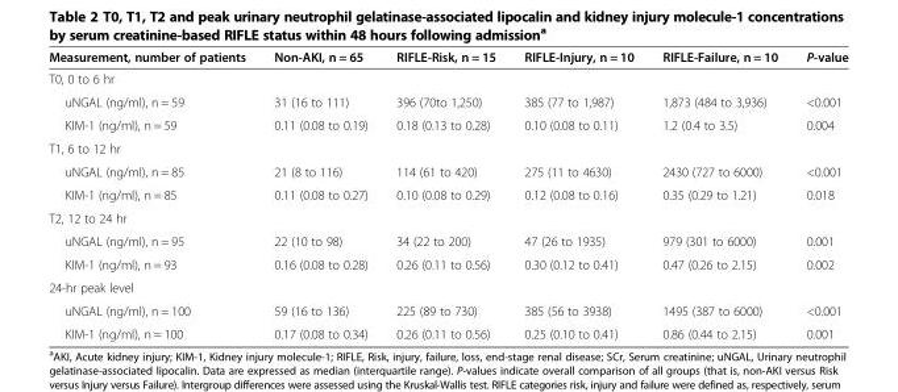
<table><thead><tr><td>Measurement, number of patients</td><td>Non-AKI, n = 65</td><td>RIFLE-Risk, n = 15</td><td>RIFLE-Injury, n = 10</td><td>RIFLE-Failure, n = 10</td><td>P-value</td></tr></thead><tbody><tr><td colspan="6">T0, 0 to 6 hr</td></tr><tr><td>uNGAL (ng/ml), n = 59</td><td>31 (16 to 111)</td><td>396 (70to 1,250)</td><td>385 (77 to 1,987)</td><td>1,873 (484 to 3,936)</td><td>&lt;0.001</td></tr><tr><td>KIM-1 (ng/ml), n = 59</td><td>0.11 (0.08 to 0.19)</td><td>0.18 (0.13 to 0.28)</td><td>0.10 (0.08 to 0.11)</td><td>1.2 (0.4 to 3.5)</td><td>0.004</td></tr><tr><td colspan="6">T1, 6 to 12 hr</td></tr><tr><td>uNGAL (ng/ml), n = 85</td><td>21 (8 to 116)</td><td>114 (61 to 420)</td><td>275 (11 to 4630)</td><td>2430 (727 to 6000)</td><td>&lt;0.001</td></tr><tr><td>KIM-1 (ng/ml), n = 85</td><td>0.11 (0.08 to 0.27)</td><td>0.10 (0.08 to 0.29)</td><td>0.12 (0.08 to 0.16)</td><td>0.35 (0.29 to 1.21)</td><td>0.018</td></tr><tr><td colspan="6">T2, 12 to 24 hr</td></tr><tr><td>uNGAL (ng/ml), n = 95</td><td>22 (10 to 98)</td><td>34 (22 to 200)</td><td>47 (26 to 1935)</td><td>979 (301 to 6000)</td><td>0.001</td></tr><tr><td>KIM-1 (ng/ml), n = 93</td><td>0.16 (0.08 to 0.28)</td><td>0.26 (0.11 to 0.56)</td><td>0.30 (0.12 to 0.41)</td><td>0.47 (0.26 to 2.15)</td><td>0.002</td></tr><tr><td colspan="6">24-hr peak level</td></tr><tr><td>uNGAL (ng/ml), n = 100</td><td>59 (16 to 136)</td><td>225 (89 to 730)</td><td>385 (56 to 3938)</td><td>1495 (387 to 6000)</td><td>&lt;0.001</td></tr><tr><td>KIM-1 (ng/ml), n = 100</td><td>0.17 (0.08 to 0.34)</td><td>0.26 (0.11 to 0.56)</td><td>0.25 (0.10 to 0.41)</td><td>0.86 (0.44 to 2.15)</td><td>0.001</td></tr></tbody></table>